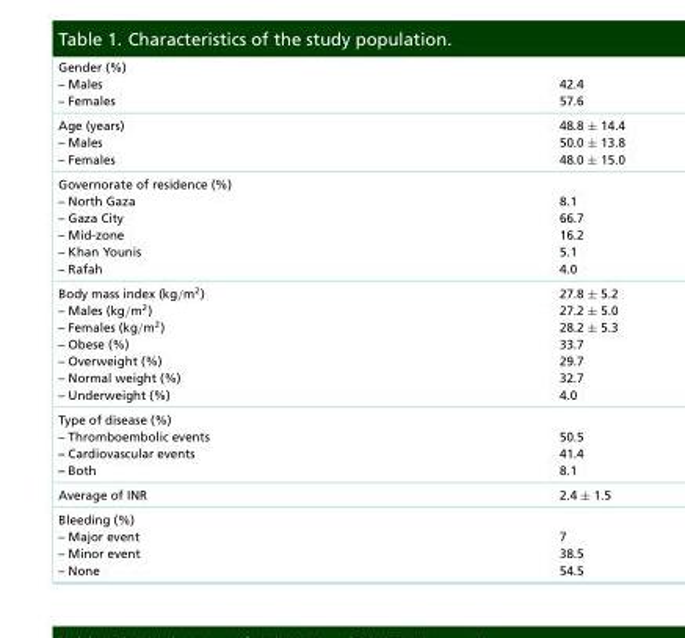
<table><tbody><tr><td>Gender (%) – Males – Females</td><td>42.4 57.6</td></tr><tr><td>Age (years) – Males – Females</td><td>48.8 ± 14.4 50.0 ± 13.8 48.0 ± 15.0</td></tr><tr><td>Governorate of residence (%) – North Gaza – Gaza City – Mid-zone – Khan Younis – Rafah</td><td>8.1 66.7 16.2 5.1 4.0</td></tr><tr><td>Body mass index (kg/m<sup>2</sup>) – Males (kg/m<sup>2</sup>) – Females (kg/m<sup>2</sup>) – Obese (%) – Overweight (%) – Normal weight (%) – Underweight (%)</td><td>27.8 ± 5.2 27.2 ± 5.0 28.2 ± 5.3 33.7 29.7 32.7 4.0</td></tr><tr><td>Type of disease (%) – Thromboembolic events – Cardiovascular events – Both</td><td>50.5 41.4 8.1</td></tr><tr><td>Average of INR</td><td>2.4 ± 1.5</td></tr><tr><td>Bleeding (%) – Major event – Minor event – None</td><td>7 38.5 54.5</td></tr></tbody></table>